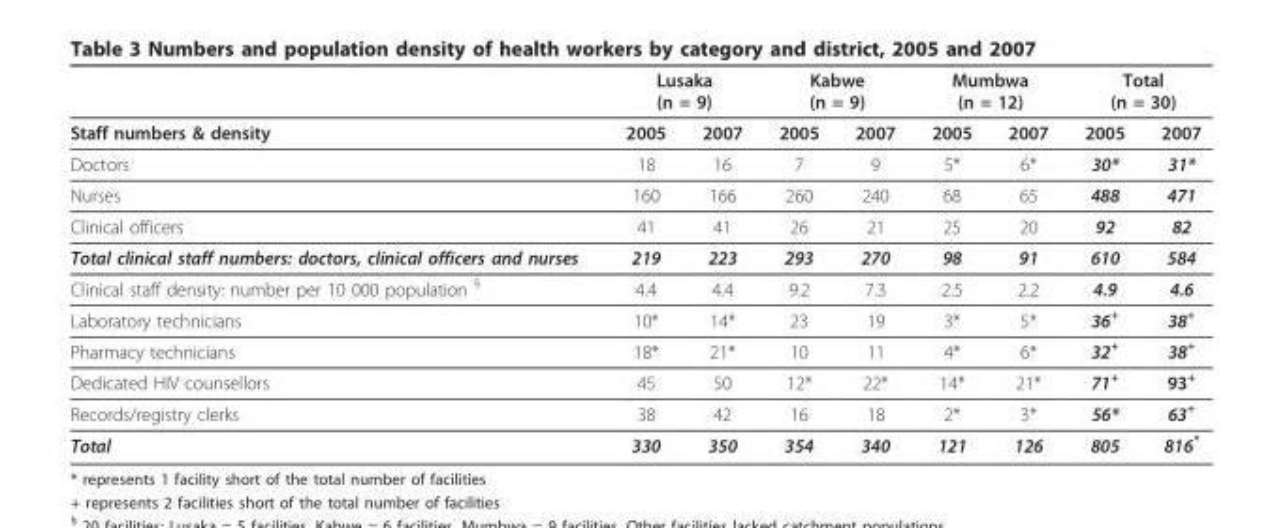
<table><thead><tr><td rowspan="2">Staff numbers &amp; density</td><td colspan="2">Lusaka (n = 9)</td><td colspan="2">Kabwe (n = 9)</td><td colspan="2">Mumbwa (n = 12)</td><td colspan="2">Total (n = 30)</td></tr><tr><td>2005</td><td>2007</td><td>2005</td><td>2007</td><td>2005</td><td>2007</td><td>2005</td><td>2007</td></tr></thead><tbody><tr><td>Doctors</td><td>18</td><td>16</td><td>7</td><td>9</td><td>5*</td><td>6*</td><td>30*</td><td>31*</td></tr><tr><td>Nurses</td><td>160</td><td>166</td><td>260</td><td>240</td><td>68</td><td>65</td><td>488</td><td>471</td></tr><tr><td>Clinical officers</td><td>41</td><td>41</td><td>26</td><td>21</td><td>25</td><td>20</td><td>92</td><td>82</td></tr><tr><td>Total clinical staff numbers: doctors, clinical officers and nurses</td><td>219</td><td>223</td><td>293</td><td>270</td><td>98</td><td>91</td><td>610</td><td>584</td></tr><tr><td>Clinical staff density: number per 10 000 population <sup>§</sup></td><td>4.4</td><td>4.4</td><td>9.2</td><td>7.3</td><td>2.5</td><td>2.2</td><td>4.9</td><td>4.6</td></tr><tr><td>Laboratory technicians</td><td>10*</td><td>14*</td><td>23</td><td>19</td><td>3*</td><td>5*</td><td>36<sup>+</sup></td><td>38<sup>+</sup></td></tr><tr><td>Pharmacy technicians</td><td>18*</td><td>21*</td><td>10</td><td>11</td><td>4*</td><td>6*</td><td>32<sup>+</sup></td><td>38<sup>+</sup></td></tr><tr><td>Dedicated HIV counsellors</td><td>45</td><td>50</td><td>12*</td><td>22*</td><td>14*</td><td>21*</td><td>71<sup>+</sup></td><td>93<sup>+</sup></td></tr><tr><td>Records/registry clerks</td><td>38</td><td>42</td><td>16</td><td>18</td><td>2*</td><td>3*</td><td>56*</td><td>63<sup>+</sup></td></tr><tr><td>Total</td><td>330</td><td>350</td><td>354</td><td>340</td><td>121</td><td>126</td><td>805</td><td>816*</td></tr></tbody></table>